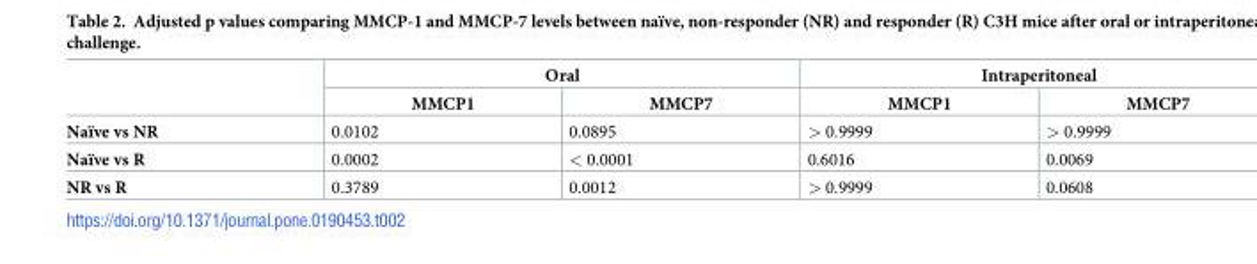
<table><thead><tr><td rowspan="2"></td><td colspan="2">Oral</td><td colspan="2">Intraperitoneal</td></tr><tr><td>MMCP1</td><td>MMCP7</td><td>MMCP1</td><td>MMCP7</td></tr></thead><tbody><tr><td>Naïve vs NR</td><td>0.0102</td><td>0.0895</td><td>&gt; 0.9999</td><td>&gt; 0.9999</td></tr><tr><td>Naïve vs R</td><td>0.0002</td><td>&lt; 0.0001</td><td>0.6016</td><td>0.0069</td></tr><tr><td>NR vs R</td><td>0.3789</td><td>0.0012</td><td>&gt; 0.9999</td><td>0.0608</td></tr></tbody></table>